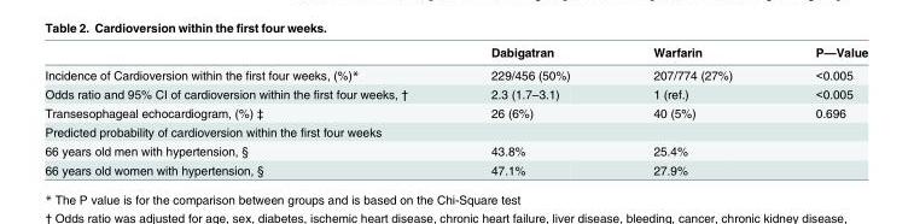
<table><thead><tr><td></td><td>Dabigatran</td><td>Warfarin</td><td>P—Value</td></tr></thead><tbody><tr><td>Incidence of Cardioversion within the first four weeks, (%)*</td><td>229/456 (50%)</td><td>207/774 (27%)</td><td>&lt;0.005</td></tr><tr><td>Odds ratio and 95% CI of cardioversion within the first four weeks, †</td><td>2.3 (1.7–3.1)</td><td>1 (ref.)</td><td>&lt;0.005</td></tr><tr><td>Transesophageal echocardiogram, (%) ‡</td><td>26 (6%)</td><td>40 (5%)</td><td>0.696</td></tr><tr><td colspan="4">Predicted probability of cardioversion within the first four weeks</td></tr><tr><td>66 years old men with hypertension, §</td><td>43.8%</td><td>25.4%</td><td></td></tr><tr><td>66 years old women with hypertension, §</td><td>47.1%</td><td>27.9%</td><td></td></tr></tbody></table>